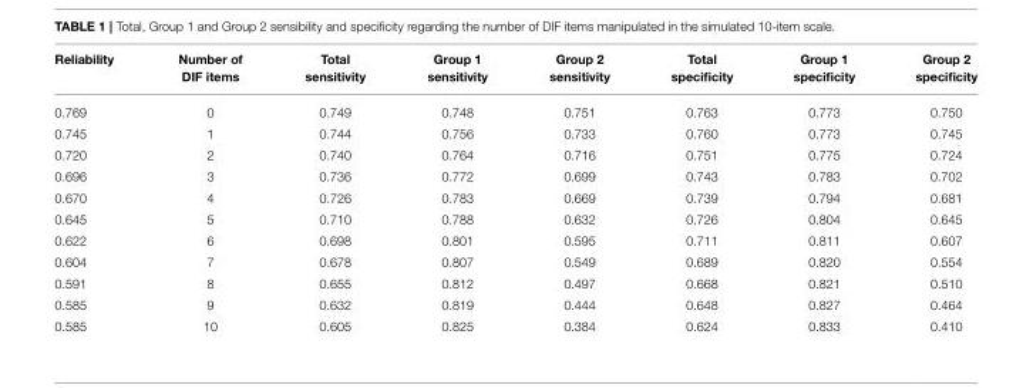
<table><thead><tr><td>Reliability</td><td>Number of DIF items</td><td>Total sensitivity</td><td>Group 1 sensitivity</td><td>Group 2 sensitivity</td><td>Total specificity</td><td>Group 1 specificity</td><td>Group 2 specificity</td></tr></thead><tbody><tr><td>0.769</td><td>0</td><td>0.749</td><td>0.748</td><td>0.751</td><td>0.763</td><td>0.773</td><td>0.750</td></tr><tr><td>0.745</td><td>1</td><td>0.744</td><td>0.756</td><td>0.733</td><td>0.760</td><td>0.773</td><td>0.745</td></tr><tr><td>0.720</td><td>2</td><td>0.740</td><td>0.764</td><td>0.716</td><td>0.751</td><td>0.775</td><td>0.724</td></tr><tr><td>0.696</td><td>3</td><td>0.736</td><td>0.772</td><td>0.699</td><td>0.743</td><td>0.783</td><td>0.702</td></tr><tr><td>0.670</td><td>4</td><td>0.726</td><td>0.783</td><td>0.669</td><td>0.739</td><td>0.794</td><td>0.681</td></tr><tr><td>0.645</td><td>5</td><td>0.710</td><td>0.788</td><td>0.632</td><td>0.726</td><td>0.804</td><td>0.645</td></tr><tr><td>0.622</td><td>6</td><td>0.698</td><td>0.801</td><td>0.595</td><td>0.711</td><td>0.811</td><td>0.607</td></tr><tr><td>0.604</td><td>7</td><td>0.678</td><td>0.807</td><td>0.549</td><td>0.689</td><td>0.820</td><td>0.554</td></tr><tr><td>0.591</td><td>8</td><td>0.655</td><td>0.812</td><td>0.497</td><td>0.668</td><td>0.821</td><td>0.510</td></tr><tr><td>0.585</td><td>9</td><td>0.632</td><td>0.819</td><td>0.444</td><td>0.648</td><td>0.827</td><td>0.464</td></tr><tr><td>0.585</td><td>10</td><td>0.605</td><td>0.825</td><td>0.384</td><td>0.624</td><td>0.833</td><td>0.410</td></tr></tbody></table>